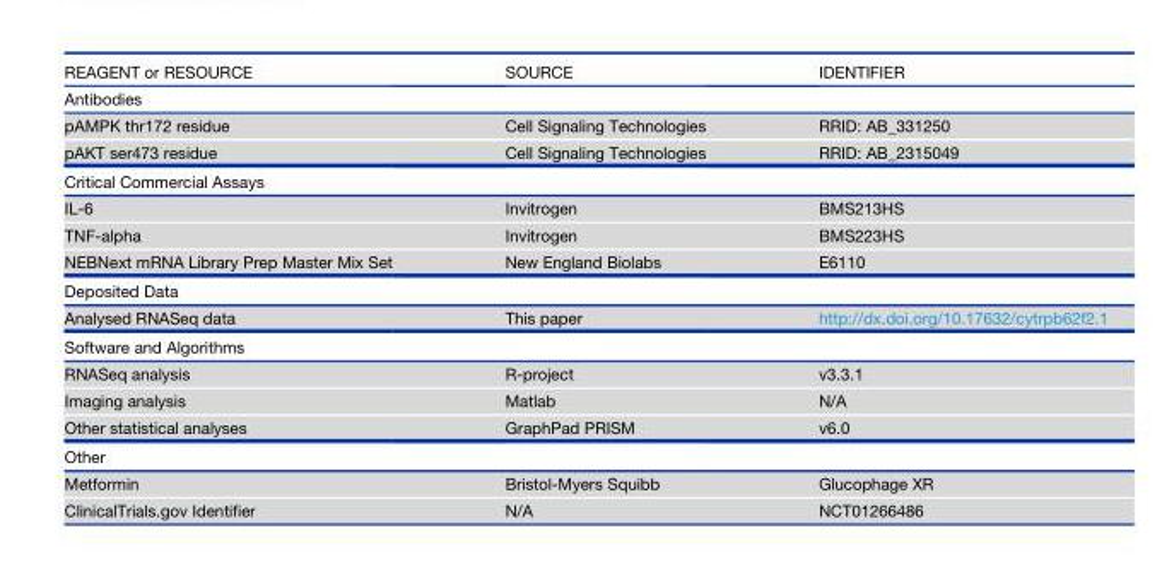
<table><thead><tr><td>REAGENT or RESOURCE</td><td>SOURCE</td><td>IDENTIFIER</td></tr></thead><tbody><tr><td colspan="3">Antibodies</td></tr><tr><td>pAMPK thr172 residue</td><td>Cell Signaling Technologies</td><td>RRID: AB_331250</td></tr><tr><td>pAKT ser473 residue</td><td>Cell Signaling Technologies</td><td>RRID: AB_2315049</td></tr><tr><td colspan="3">Critical Commercial Assays</td></tr><tr><td>IL-6</td><td>Invitrogen</td><td>BMS213HS</td></tr><tr><td>TNF-alpha</td><td>Invitrogen</td><td>BMS223HS</td></tr><tr><td>NEBNext mRNA Library Prep Master Mix Set</td><td>New England Biolabs</td><td>E6110</td></tr><tr><td colspan="3">Deposited Data</td></tr><tr><td>Analysed RNASeq data</td><td>This paper</td><td>http://dx.doi.org/10.17632/cytrpb62f2.1</td></tr><tr><td colspan="3">Software and Algorithms</td></tr><tr><td>RNASeq analysis</td><td>R-project</td><td>v3.3.1</td></tr><tr><td>Imaging analysis</td><td>Matlab</td><td>N/A</td></tr><tr><td>Other statistical analyses</td><td>GraphPad PRISM</td><td>v6.0</td></tr><tr><td colspan="3">Other</td></tr><tr><td>Metformin</td><td>Bristol-Myers Squibb</td><td>Glucophage XR</td></tr><tr><td>ClinicalTrials.gov Identifier</td><td>N/A</td><td>NCT01266486</td></tr></tbody></table>